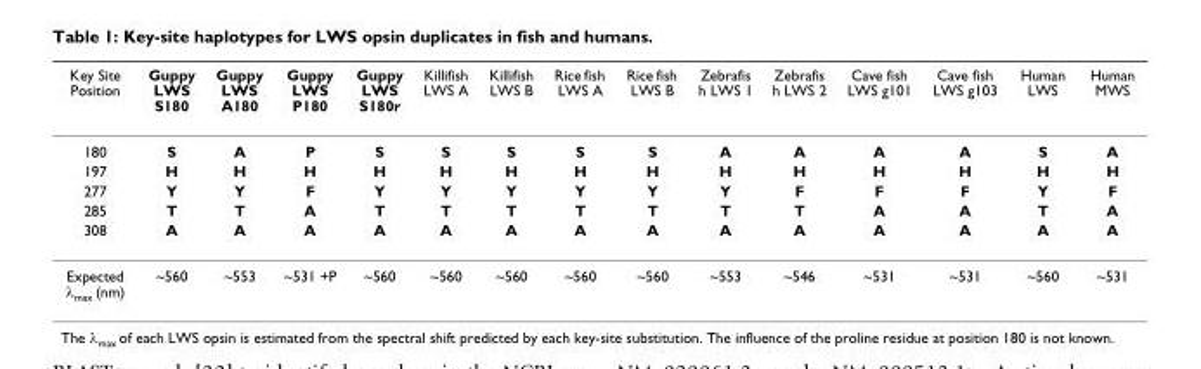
<table><thead><tr><td>Key Site Position</td><td>Guppy LWS S180</td><td>Guppy LWS A180</td><td>Guppy LWS P180</td><td>Guppy LWS S180r</td><td>Killifish LWS A</td><td>Killifish LWS B</td><td>Rice fish LWS A</td><td>Rice fish LWS B</td><td>Zebrafis h LWS 1</td><td>Zebrafis h LWS 2</td><td>Cave fish LWS g101</td><td>Cave fish LWS g103</td><td>Human LWS</td><td>Human MWS</td></tr></thead><tbody><tr><td>180</td><td>S</td><td>A</td><td>P</td><td>S</td><td>S</td><td>S</td><td>S</td><td>S</td><td>A</td><td>A</td><td>A</td><td>A</td><td>S</td><td>A</td></tr><tr><td>197</td><td>H</td><td>H</td><td>H</td><td>H</td><td>H</td><td>H</td><td>H</td><td>H</td><td>H</td><td>H</td><td>H</td><td>H</td><td>H</td><td>H</td></tr><tr><td>277</td><td>Y</td><td>Y</td><td>F</td><td>Y</td><td>Y</td><td>Y</td><td>Y</td><td>Y</td><td>Y</td><td>F</td><td>F</td><td>F</td><td>Y</td><td>F</td></tr><tr><td>285</td><td>T</td><td>T</td><td>A</td><td>T</td><td>T</td><td>T</td><td>T</td><td>T</td><td>T</td><td>T</td><td>A</td><td>A</td><td>T</td><td>A</td></tr><tr><td>308</td><td>A</td><td>A</td><td>A</td><td>A</td><td>A</td><td>A</td><td>A</td><td>A</td><td>A</td><td>A</td><td>A</td><td>A</td><td>A</td><td>A</td></tr><tr><td>Expected λ<sub>max</sub> (nm)</td><td>~560</td><td>~553</td><td>~531 +P</td><td>~560</td><td>~560</td><td>~560</td><td>~560</td><td>~560</td><td>~553</td><td>~546</td><td>~531</td><td>~531</td><td>~560</td><td>~531</td></tr></tbody></table>